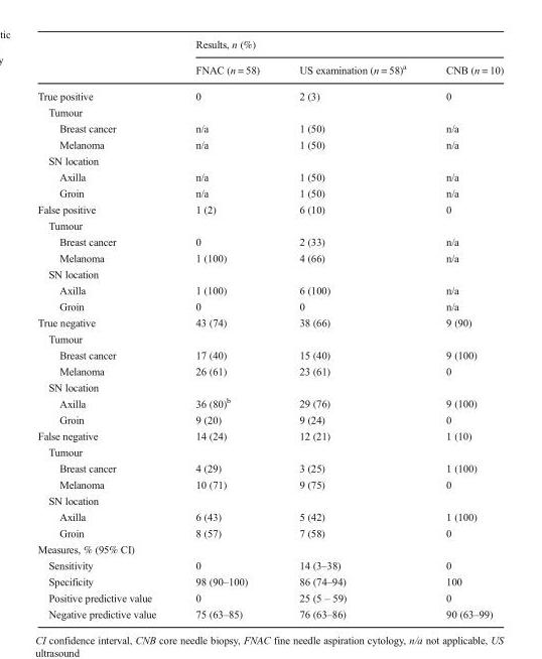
<table><thead><tr><td rowspan="2"></td><td colspan="3">Results, n (%)</td></tr><tr><td>FNAC (n = 58)</td><td>US examination (n = 58)<sup>a</sup></td><td>CNB (n = 10)</td></tr></thead><tbody><tr><td>True positive</td><td>0</td><td>2 (3)</td><td>0</td></tr><tr><td colspan="4">Tumour</td></tr><tr><td>Breast cancer</td><td>n/a</td><td>1 (50)</td><td>n/a</td></tr><tr><td>Melanoma</td><td>n/a</td><td>1 (50)</td><td>n/a</td></tr><tr><td colspan="4">SN location</td></tr><tr><td>Axilla</td><td>n/a</td><td>1 (50)</td><td>n/a</td></tr><tr><td>Groin</td><td>n/a</td><td>1 (50)</td><td>n/a</td></tr><tr><td>False positive</td><td>1 (2)</td><td>6 (10)</td><td>0</td></tr><tr><td colspan="4">Tumour</td></tr><tr><td>Breast cancer</td><td>0</td><td>2 (33)</td><td>n/a</td></tr><tr><td>Melanoma</td><td>1 (100)</td><td>4 (66)</td><td>n/a</td></tr><tr><td colspan="4">SN location</td></tr><tr><td>Axilla</td><td>1 (100)</td><td>6 (100)</td><td>n/a</td></tr><tr><td>Groin</td><td>0</td><td>0</td><td>n/a</td></tr><tr><td>True negative</td><td>43 (74)</td><td>38 (66)</td><td>9 (90)</td></tr><tr><td colspan="4">Tumour</td></tr><tr><td>Breast cancer</td><td>17 (40)</td><td>15 (40)</td><td>9 (100)</td></tr><tr><td>Melanoma</td><td>26 (61)</td><td>23 (61)</td><td>0</td></tr><tr><td colspan="4">SN location</td></tr><tr><td>Axilla</td><td>36 (80)<sup>b</sup></td><td>29 (76)</td><td>9 (100)</td></tr><tr><td>Groin</td><td>9 (20)</td><td>9 (24)</td><td>0</td></tr><tr><td>False negative</td><td>14 (24)</td><td>12 (21)</td><td>1 (10)</td></tr><tr><td colspan="4">Tumour</td></tr><tr><td>Breast cancer</td><td>4 (29)</td><td>3 (25)</td><td>1 (100)</td></tr><tr><td>Melanoma</td><td>10 (71)</td><td>9 (75)</td><td>0</td></tr><tr><td colspan="4">SN location</td></tr><tr><td>Axilla</td><td>6 (43)</td><td>5 (42)</td><td>1 (100)</td></tr><tr><td>Groin</td><td>8 (57)</td><td>7 (58)</td><td>0</td></tr><tr><td colspan="4">Measures, % (95% CI)</td></tr><tr><td>Sensitivity</td><td>0</td><td>14 (3–38)</td><td>0</td></tr><tr><td>Specificity</td><td>98 (90–100)</td><td>86 (74–94)</td><td>100</td></tr><tr><td>Positive predictive value</td><td>0</td><td>25 (5 – 59)</td><td>0</td></tr><tr><td>Negative predictive value</td><td>75 (63–85)</td><td>76 (63–86)</td><td>90 (63–99)</td></tr></tbody></table>